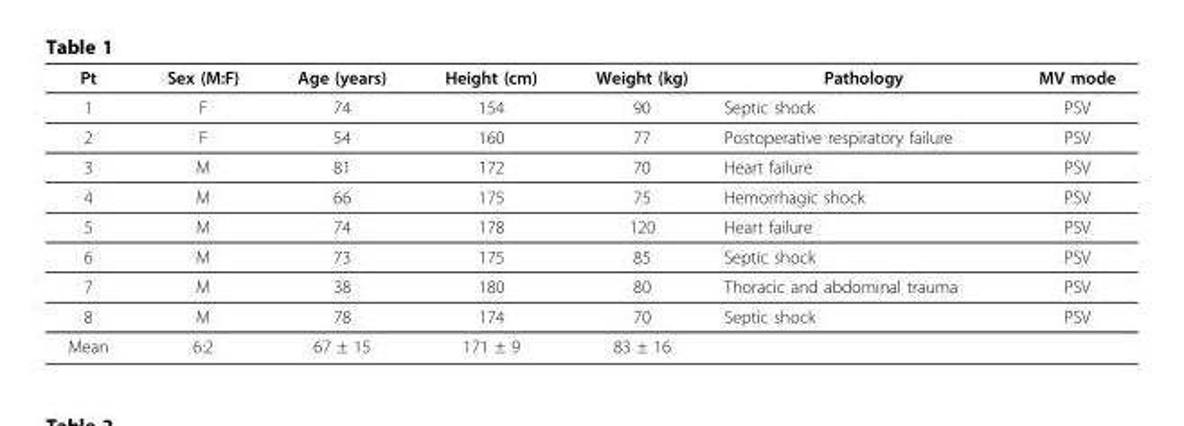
<table><thead><tr><td>Pt</td><td>Sex (M:F)</td><td>Age (years)</td><td>Height (cm)</td><td>Weight (kg)</td><td>Pathology</td><td>MV mode</td></tr></thead><tbody><tr><td>1</td><td>F</td><td>74</td><td>154</td><td>90</td><td>Septic shock</td><td>PSV</td></tr><tr><td>2</td><td>F</td><td>54</td><td>160</td><td>77</td><td>Postoperative respiratory failure</td><td>PSV</td></tr><tr><td>3</td><td>M</td><td>81</td><td>172</td><td>70</td><td>Heart failure</td><td>PSV</td></tr><tr><td>4</td><td>M</td><td>66</td><td>175</td><td>75</td><td>Hemorrhagic shock</td><td>PSV</td></tr><tr><td>5</td><td>M</td><td>74</td><td>178</td><td>120</td><td>Heart failure</td><td>PSV</td></tr><tr><td>6</td><td>M</td><td>73</td><td>175</td><td>85</td><td>Septic shock</td><td>PSV</td></tr><tr><td>7</td><td>M</td><td>38</td><td>180</td><td>80</td><td>Thoracic and abdominal trauma</td><td>PSV</td></tr><tr><td>8</td><td>M</td><td>78</td><td>174</td><td>70</td><td>Septic shock</td><td>PSV</td></tr><tr><td>Mean</td><td>6:2</td><td>67 ± 15</td><td>171 ± 9</td><td>83 ± 16</td><td></td><td></td></tr></tbody></table>